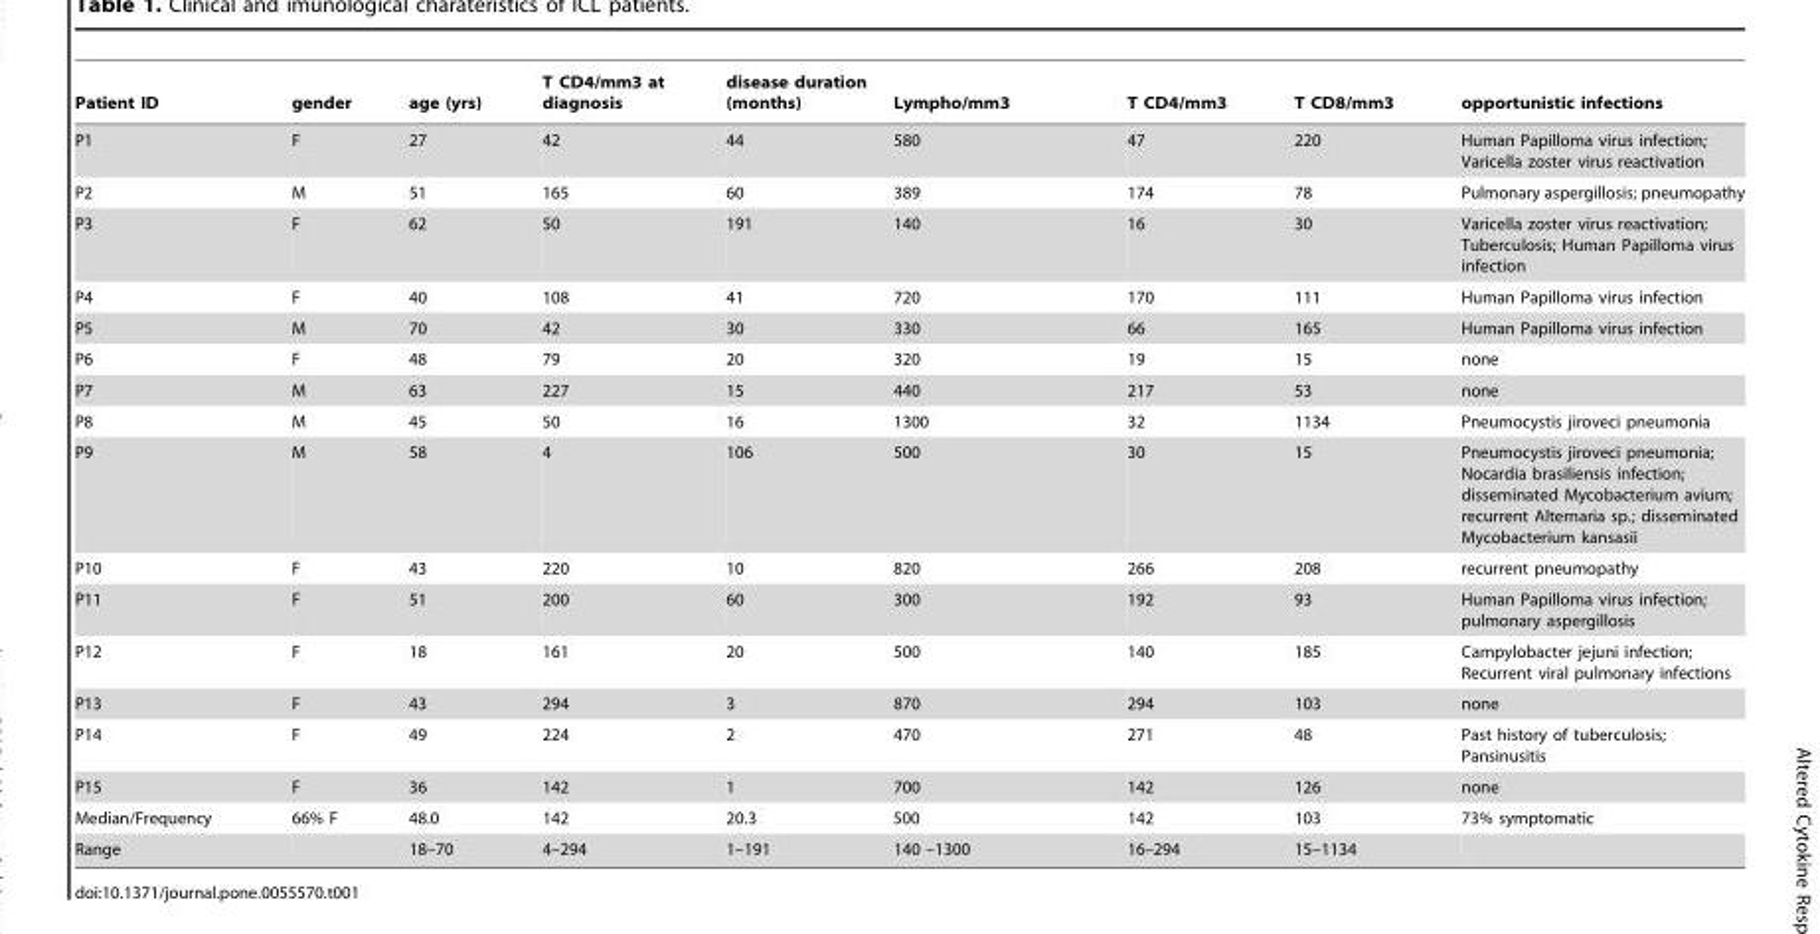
<table><thead><tr><td>Patient ID</td><td>gender</td><td>age (yrs)</td><td>T CD4/mm3 at diagnosis</td><td>disease duration (months)</td><td>Lympho/mm3</td><td>T CD4/mm3</td><td>T CD8/mm3</td><td>opportunistic infections</td></tr></thead><tbody><tr><td>P1</td><td>F</td><td>27</td><td>42</td><td>44</td><td>580</td><td>47</td><td>220</td><td>Human Papilloma virus infection; Varicella zoster virus reactivation</td></tr><tr><td>P2</td><td>M</td><td>51</td><td>165</td><td>60</td><td>389</td><td>174</td><td>78</td><td>Pulmonary aspergillosis; pneumopathy</td></tr><tr><td>P3</td><td>F</td><td>62</td><td>50</td><td>191</td><td>140</td><td>16</td><td>30</td><td>Varicella zoster virus reactivation; Tuberculosis; Human Papilloma virus infection</td></tr><tr><td>P4</td><td>F</td><td>40</td><td>108</td><td>41</td><td>720</td><td>170</td><td>111</td><td>Human Papilloma virus infection</td></tr><tr><td>P5</td><td>M</td><td>70</td><td>42</td><td>30</td><td>330</td><td>66</td><td>165</td><td>Human Papilloma virus infection</td></tr><tr><td>P6</td><td>F</td><td>48</td><td>79</td><td>20</td><td>320</td><td>19</td><td>15</td><td>none</td></tr><tr><td>P7</td><td>M</td><td>63</td><td>227</td><td>15</td><td>440</td><td>217</td><td>53</td><td>none</td></tr><tr><td>P8</td><td>M</td><td>45</td><td>50</td><td>16</td><td>1300</td><td>32</td><td>1134</td><td>Pneumocystis jiroveci pneumonia</td></tr><tr><td>P9</td><td>M</td><td>58</td><td>4</td><td>106</td><td>500</td><td>30</td><td>15</td><td>Pneumocystis jiroveci pneumonia; Nocardia brasiliensis infection; disseminated Mycobacterium avium; recurrent Alternaria sp.; disseminated Mycobacterium kansasii</td></tr><tr><td>P10</td><td>F</td><td>43</td><td>220</td><td>10</td><td>820</td><td>266</td><td>208</td><td>recurrent pneumopathy</td></tr><tr><td>P11</td><td>F</td><td>51</td><td>200</td><td>60</td><td>300</td><td>192</td><td>93</td><td>Human Papilloma virus infection; pulmonary aspergillosis</td></tr><tr><td>P12</td><td>F</td><td>18</td><td>161</td><td>20</td><td>500</td><td>140</td><td>185</td><td>Campylobacter jejuni infection; Recurrent viral pulmonary infections</td></tr><tr><td>P13</td><td>F</td><td>43</td><td>294</td><td>3</td><td>870</td><td>294</td><td>103</td><td>none</td></tr><tr><td>P14</td><td>F</td><td>49</td><td>224</td><td>2</td><td>470</td><td>271</td><td>48</td><td>Past history of tuberculosis; Pansinusitis</td></tr><tr><td>P15</td><td>F</td><td>36</td><td>142</td><td>1</td><td>700</td><td>142</td><td>126</td><td>none</td></tr><tr><td>Median/Frequency</td><td>66% F</td><td>48.0</td><td>142</td><td>20.3</td><td>500</td><td>142</td><td>103</td><td>73% symptomatic</td></tr><tr><td>Range</td><td></td><td>18–70</td><td>4–294</td><td>1–191</td><td>140 –1300</td><td>16–294</td><td>15–1134</td><td></td></tr></tbody></table>